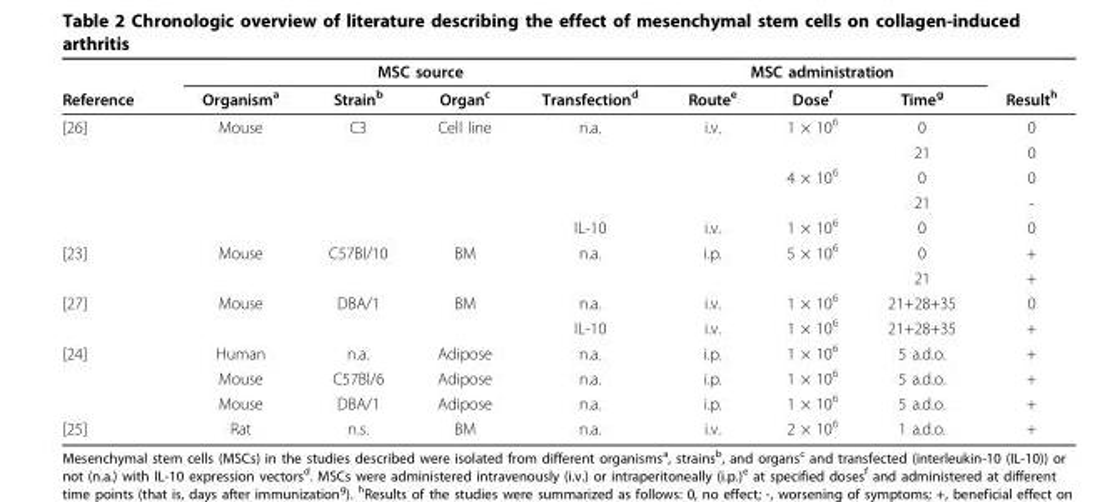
<table><thead><tr><td rowspan="2">Reference</td><td colspan="4">MSC source</td><td colspan="3">MSC administration</td><td rowspan="2">Result<sup>h</sup></td></tr><tr><td>Organism<sup>a</sup></td><td>Strain<sup>b</sup></td><td>Organ<sup>c</sup></td><td>Transfection<sup>d</sup></td><td>Route<sup>e</sup></td><td>Dose<sup>f</sup></td><td>Time<sup>g</sup></td></tr></thead><tbody><tr><td rowspan="5">[26]</td><td>Mouse</td><td>C3</td><td>Cell line</td><td>n.a.</td><td>i.v.</td><td>1 × 10<sup>6</sup></td><td>0</td><td>0</td></tr><tr><td></td><td></td><td></td><td></td><td></td><td></td><td>21</td><td>0</td></tr><tr><td></td><td></td><td></td><td></td><td></td><td>4 × 10<sup>6</sup></td><td>0</td><td>0</td></tr><tr><td></td><td></td><td></td><td></td><td></td><td></td><td>21</td><td>-</td></tr><tr><td></td><td></td><td></td><td>IL-10</td><td>i.v.</td><td>1 × 10<sup>6</sup></td><td>0</td><td>0</td></tr><tr><td rowspan="2">[23]</td><td>Mouse</td><td>C57Bl/10</td><td>BM</td><td>n.a.</td><td>i.p.</td><td>5 × 10<sup>6</sup></td><td>0</td><td>+</td></tr><tr><td></td><td></td><td></td><td></td><td></td><td></td><td>21</td><td>+</td></tr><tr><td rowspan="2">[27]</td><td>Mouse</td><td>DBA/1</td><td>BM</td><td>n.a.</td><td>i.v.</td><td>1 × 10<sup>6</sup></td><td>21+28+35</td><td>0</td></tr><tr><td></td><td></td><td></td><td>IL-10</td><td>i.v.</td><td>1 × 10<sup>6</sup></td><td>21+28+35</td><td>+</td></tr><tr><td rowspan="3">[24]</td><td>Human</td><td>n.a.</td><td>Adipose</td><td>n.a.</td><td>i.p.</td><td>1 × 10<sup>6</sup></td><td>5 a.d.o.</td><td>+</td></tr><tr><td>Mouse</td><td>C57Bl/6</td><td>Adipose</td><td>n.a.</td><td>i.p.</td><td>1 × 10<sup>6</sup></td><td>5 a.d.o.</td><td>+</td></tr><tr><td>Mouse</td><td>DBA/1</td><td>Adipose</td><td>n.a.</td><td>i.p.</td><td>1 × 10<sup>6</sup></td><td>5 a.d.o.</td><td>+</td></tr><tr><td>[25]</td><td>Rat</td><td>n.s.</td><td>BM</td><td>n.a.</td><td>i.v.</td><td>2 × 10<sup>6</sup></td><td>1 a.d.o.</td><td>+</td></tr></tbody></table>